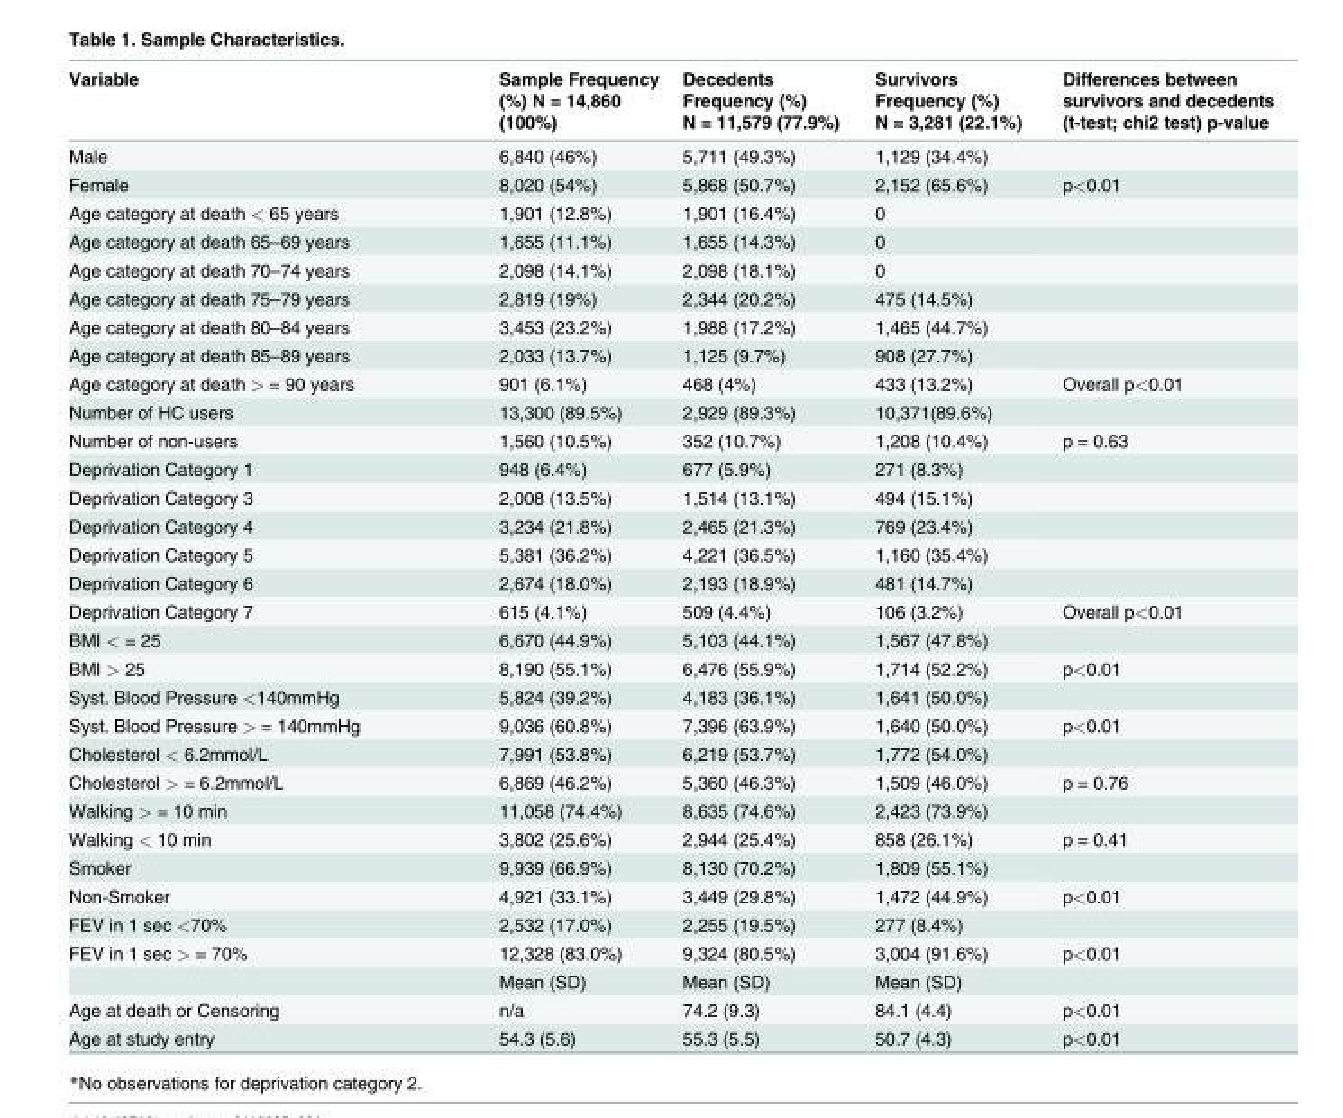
<table><thead><tr><td>Variable</td><td>Sample Frequency (%) N = 14,860 (100%)</td><td>Decedents Frequency (%) N = 11,579 (77.9%)</td><td>Survivors Frequency (%) N = 3,281 (22.1%)</td><td>Differences between survivors and decedents (t-test; chi2 test) p-value</td></tr></thead><tbody><tr><td>Male</td><td>6,840 (46%)</td><td>5,711 (49.3%)</td><td>1,129 (34.4%)</td><td></td></tr><tr><td>Female</td><td>8,020 (54%)</td><td>5,868 (50.7%)</td><td>2,152 (65.6%)</td><td>p&lt;0.01</td></tr><tr><td>Age category at death &lt; 65 years</td><td>1,901 (12.8%)</td><td>1,901 (16.4%)</td><td>0</td><td></td></tr><tr><td>Age category at death 65–69 years</td><td>1,655 (11.1%)</td><td>1,655 (14.3%)</td><td>0</td><td></td></tr><tr><td>Age category at death 70–74 years</td><td>2,098 (14.1%)</td><td>2,098 (18.1%)</td><td>0</td><td></td></tr><tr><td>Age category at death 75–79 years</td><td>2,819 (19%)</td><td>2,344 (20.2%)</td><td>475 (14.5%)</td><td></td></tr><tr><td>Age category at death 80–84 years</td><td>3,453 (23.2%)</td><td>1,988 (17.2%)</td><td>1,465 (44.7%)</td><td></td></tr><tr><td>Age category at death 85–89 years</td><td>2,033 (13.7%)</td><td>1,125 (9.7%)</td><td>908 (27.7%)</td><td></td></tr><tr><td>Age category at death &gt; = 90 years</td><td>901 (6.1%)</td><td>468 (4%)</td><td>433 (13.2%)</td><td>Overall p&lt;0.01</td></tr><tr><td>Number of HC users</td><td>13,300 (89.5%)</td><td>2,929 (89.3%)</td><td>10,371(89.6%)</td><td></td></tr><tr><td>Number of non-users</td><td>1,560 (10.5%)</td><td>352 (10.7%)</td><td>1,208 (10.4%)</td><td>p = 0.63</td></tr><tr><td>Deprivation Category 1</td><td>948 (6.4%)</td><td>677 (5.9%)</td><td>271 (8.3%)</td><td></td></tr><tr><td>Deprivation Category 3</td><td>2,008 (13.5%)</td><td>1,514 (13.1%)</td><td>494 (15.1%)</td><td></td></tr><tr><td>Deprivation Category 4</td><td>3,234 (21.8%)</td><td>2,465 (21.3%)</td><td>769 (23.4%)</td><td></td></tr><tr><td>Deprivation Category 5</td><td>5,381 (36.2%)</td><td>4,221 (36.5%)</td><td>1,160 (35.4%)</td><td></td></tr><tr><td>Deprivation Category 6</td><td>2,674 (18.0%)</td><td>2,193 (18.9%)</td><td>481 (14.7%)</td><td></td></tr><tr><td>Deprivation Category 7</td><td>615 (4.1%)</td><td>509 (4.4%)</td><td>106 (3.2%)</td><td>Overall p&lt;0.01</td></tr><tr><td>BMI &lt; = 25</td><td>6,670 (44.9%)</td><td>5,103 (44.1%)</td><td>1,567 (47.8%)</td><td></td></tr><tr><td>BMI &gt; 25</td><td>8,190 (55.1%)</td><td>6,476 (55.9%)</td><td>1,714 (52.2%)</td><td>p&lt;0.01</td></tr><tr><td>Syst. Blood Pressure &lt;140mmHg</td><td>5,824 (39.2%)</td><td>4,183 (36.1%)</td><td>1,641 (50.0%)</td><td></td></tr><tr><td>Syst. Blood Pressure &gt; = 140mmHg</td><td>9,036 (60.8%)</td><td>7,396 (63.9%)</td><td>1,640 (50.0%)</td><td>p&lt;0.01</td></tr><tr><td>Cholesterol &lt; 6.2mmol/L</td><td>7,991 (53.8%)</td><td>6,219 (53.7%)</td><td>1,772 (54.0%)</td><td></td></tr><tr><td>Cholesterol &gt; = 6.2mmol/L</td><td>6,869 (46.2%)</td><td>5,360 (46.3%)</td><td>1,509 (46.0%)</td><td>p = 0.76</td></tr><tr><td>Walking &gt; = 10 min</td><td>11,058 (74.4%)</td><td>8,635 (74.6%)</td><td>2,423 (73.9%)</td><td></td></tr><tr><td>Walking &lt; 10 min</td><td>3,802 (25.6%)</td><td>2,944 (25.4%)</td><td>858 (26.1%)</td><td>p = 0.41</td></tr><tr><td>Smoker</td><td>9,939 (66.9%)</td><td>8,130 (70.2%)</td><td>1,809 (55.1%)</td><td></td></tr><tr><td>Non-Smoker</td><td>4,921 (33.1%)</td><td>3,449 (29.8%)</td><td>1,472 (44.9%)</td><td>p&lt;0.01</td></tr><tr><td>FEV in 1 sec &lt;70%</td><td>2,532 (17.0%)</td><td>2,255 (19.5%)</td><td>277 (8.4%)</td><td></td></tr><tr><td rowspan="2">FEV in 1 sec &gt; = 70%</td><td>12,328 (83.0%)</td><td>9,324 (80.5%)</td><td>3,004 (91.6%)</td><td>p&lt;0.01</td></tr><tr><td>Mean (SD)</td><td>Mean (SD)</td><td>Mean (SD)</td><td></td></tr><tr><td>Age at death or Censoring</td><td>n/a</td><td>74.2 (9.3)</td><td>84.1 (4.4)</td><td>p&lt;0.01</td></tr><tr><td>Age at study entry</td><td>54.3 (5.6)</td><td>55.3 (5.5)</td><td>50.7 (4.3)</td><td>p&lt;0.01</td></tr></tbody></table>